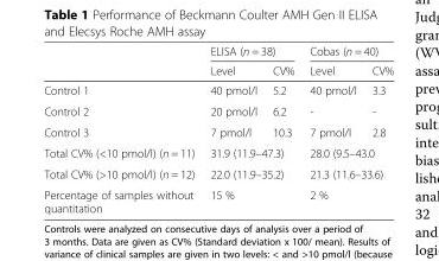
<table><thead><tr><td rowspan="2"></td><td colspan="2">ELISA (n = 38)</td><td colspan="2">Cobas (n = 40)</td></tr><tr><td>Level</td><td>CV%</td><td>Level</td><td>CV%</td></tr></thead><tbody><tr><td>Control 1</td><td>40 pmol/l</td><td>5.2</td><td>40 pmol/l</td><td>3.3</td></tr><tr><td>Control 2</td><td>20 pmol/l</td><td>6.2</td><td>-</td><td>-</td></tr><tr><td>Control 3</td><td>7 pmol/l</td><td>10.3</td><td>7 pmol/l</td><td>2.8</td></tr><tr><td>Total CV% (&lt;10 pmol/l) (n = 11)</td><td colspan="2">31.9 (11.9–47.3)</td><td colspan="2">28.0 (9.5–43.0</td></tr><tr><td>Total CV% (&gt;10 pmol/l) (n = 12)</td><td colspan="2">22.0 (11.9–35.2)</td><td colspan="2">21.3 (11.6–33.6)</td></tr><tr><td>Percentage of samples without quantitation</td><td colspan="2">15 %</td><td colspan="2">2 %</td></tr></tbody></table>